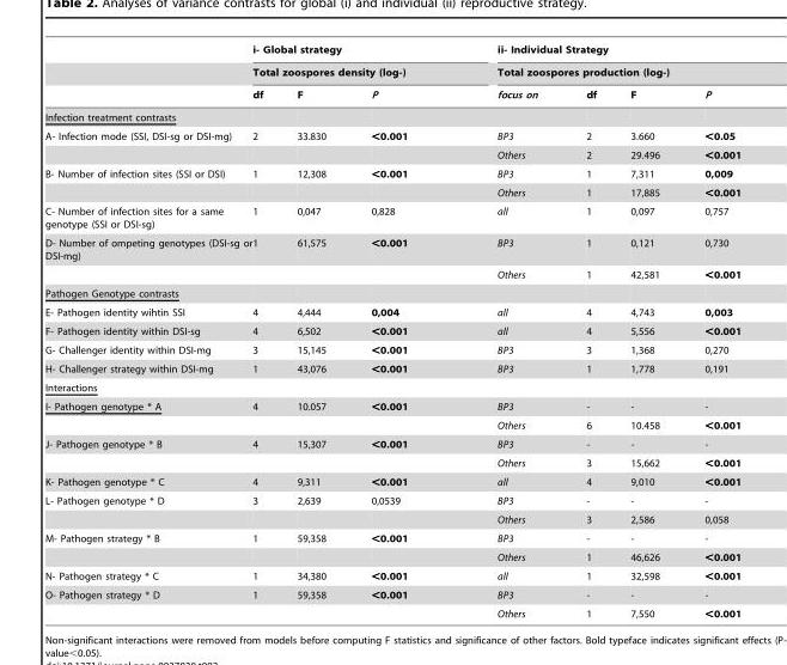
<table><thead><tr><td rowspan="3"></td><td rowspan="2" colspan="3">i- Global strategy Total zoospores density (log-)</td><td rowspan="2" colspan="4">ii- Individual Strategy Total zoospores production (log-)</td></tr><tr></tr><tr><td>df</td><td>F</td><td>P</td><td>focus on</td><td>df</td><td>F</td><td>P</td></tr></thead><tbody><tr><td colspan="8">Infection treatment contrasts</td></tr><tr><td rowspan="2">A- Infection mode (SSI, DSI-sg or DSI-mg)</td><td>2</td><td>33.830</td><td>&lt;0.001</td><td>BP3</td><td>2</td><td>3.660</td><td>&lt;0.05</td></tr><tr><td></td><td></td><td></td><td>Others</td><td>2</td><td>29.496</td><td>&lt;0.001</td></tr><tr><td rowspan="2">B- Number of infection sites (SSI or DSI)</td><td>1</td><td>12,308</td><td>&lt;0.001</td><td>BP3</td><td>1</td><td>7,311</td><td>0,009</td></tr><tr><td></td><td></td><td></td><td>Others</td><td>1</td><td>17,885</td><td>&lt;0.001</td></tr><tr><td>C- Number of infection sites for a same genotype (SSI or DSI-sg)</td><td>1</td><td>0,047</td><td>0,828</td><td>all</td><td>1</td><td>0,097</td><td>0,757</td></tr><tr><td rowspan="2">D- Number of ompeting genotypes (DSI-sg or DSI-mg)</td><td>1</td><td>61,575</td><td>&lt;0.001</td><td>BP3</td><td>1</td><td>0,121</td><td>0,730</td></tr><tr><td></td><td></td><td></td><td>Others</td><td>1</td><td>42,581</td><td>&lt;0.001</td></tr><tr><td colspan="8">Pathogen Genotype contrasts</td></tr><tr><td>E- Pathogen identity wihtin SSI</td><td>4</td><td>4,444</td><td>0,004</td><td>all</td><td>4</td><td>4,743</td><td>0,003</td></tr><tr><td>F- Pathogen identity within DSI-sg</td><td>4</td><td>6,502</td><td>&lt;0.001</td><td>all</td><td>4</td><td>5,556</td><td>&lt;0.001</td></tr><tr><td>G- Challenger identity within DSI-mg</td><td>3</td><td>15,145</td><td>&lt;0.001</td><td>BP3</td><td>3</td><td>1,368</td><td>0,270</td></tr><tr><td>H- Challenger strategy within DSI-mg</td><td>1</td><td>43,076</td><td>&lt;0.001</td><td>BP3</td><td>1</td><td>1,778</td><td>0,191</td></tr><tr><td colspan="8">Interactions</td></tr><tr><td rowspan="2">I- Pathogen genotype * A</td><td>4</td><td>10.057</td><td>&lt;0.001</td><td>BP3</td><td>-</td><td>-</td><td>-</td></tr><tr><td></td><td></td><td></td><td>Others</td><td>6</td><td>10.458</td><td>&lt;0.001</td></tr><tr><td rowspan="2">J- Pathogen genotype * B</td><td>4</td><td>15,307</td><td>&lt;0.001</td><td>BP3</td><td>-</td><td>-</td><td>-</td></tr><tr><td></td><td></td><td></td><td>Others</td><td>3</td><td>15,662</td><td>&lt;0.001</td></tr><tr><td>K- Pathogen genotype * C</td><td>4</td><td>9,311</td><td>&lt;0.001</td><td>all</td><td>4</td><td>9,010</td><td>&lt;0.001</td></tr><tr><td rowspan="2">L- Pathogen genotype * D</td><td>3</td><td>2,639</td><td>0,0539</td><td>BP3</td><td>-</td><td>-</td><td>-</td></tr><tr><td></td><td></td><td></td><td>Others</td><td>3</td><td>2,586</td><td>0,058</td></tr><tr><td rowspan="2">M- Pathogen strategy * B</td><td>1</td><td>59,358</td><td>&lt;0.001</td><td>BP3</td><td>-</td><td>-</td><td>-</td></tr><tr><td></td><td></td><td></td><td>Others</td><td>1</td><td>46,626</td><td>&lt;0.001</td></tr><tr><td>N- Pathogen strategy * C</td><td>1</td><td>34,380</td><td>&lt;0.001</td><td>all</td><td>1</td><td>32,598</td><td>&lt;0.001</td></tr><tr><td rowspan="2">O- Pathogen strategy * D</td><td>1</td><td>59,358</td><td>&lt;0.001</td><td>BP3</td><td>-</td><td>-</td><td>-</td></tr><tr><td></td><td></td><td></td><td>Others</td><td>1</td><td>7,550</td><td>&lt;0.001</td></tr></tbody></table>